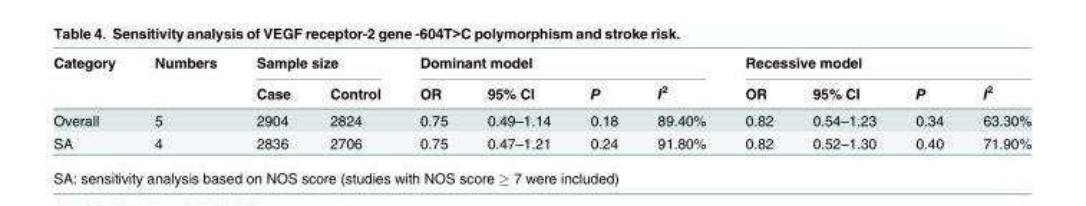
<table><thead><tr><td rowspan="2">Category</td><td rowspan="2">Numbers</td><td colspan="2">Sample size</td><td colspan="4">Dominant model</td><td colspan="4">Recessive model</td></tr><tr><td>Case</td><td>Control</td><td>OR</td><td>95% CI</td><td>P</td><td>I<sup>2</sup></td><td>OR</td><td>95% CI</td><td>P</td><td>I<sup>2</sup></td></tr></thead><tbody><tr><td>Overall</td><td>5</td><td>2904</td><td>2824</td><td>0.75</td><td>0.49–1.14</td><td>0.18</td><td>89.40%</td><td>0.82</td><td>0.54–1.23</td><td>0.34</td><td>63.30%</td></tr><tr><td>SA</td><td>4</td><td>2836</td><td>2706</td><td>0.75</td><td>0.47–1.21</td><td>0.24</td><td>91.80%</td><td>0.82</td><td>0.52–1.30</td><td>0.40</td><td>71.90%</td></tr></tbody></table>